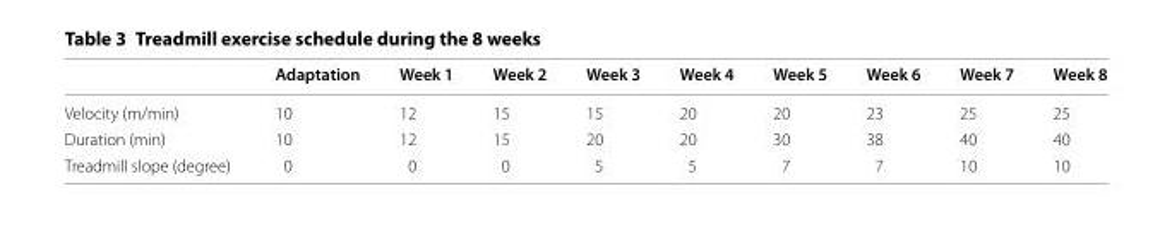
<table><thead><tr><td></td><td>Adaptation</td><td>Week 1</td><td>Week 2</td><td>Week 3</td><td>Week 4</td><td>Week 5</td><td>Week 6</td><td>Week 7</td><td>Week 8</td></tr></thead><tbody><tr><td>Velocity (m/min)</td><td>10</td><td>12</td><td>15</td><td>15</td><td>20</td><td>20</td><td>23</td><td>25</td><td>25</td></tr><tr><td>Duration (min)</td><td>10</td><td>12</td><td>15</td><td>20</td><td>20</td><td>30</td><td>38</td><td>40</td><td>40</td></tr><tr><td>Treadmill slope (degree)</td><td>0</td><td>0</td><td>0</td><td>5</td><td>5</td><td>7</td><td>7</td><td>10</td><td>10</td></tr></tbody></table>